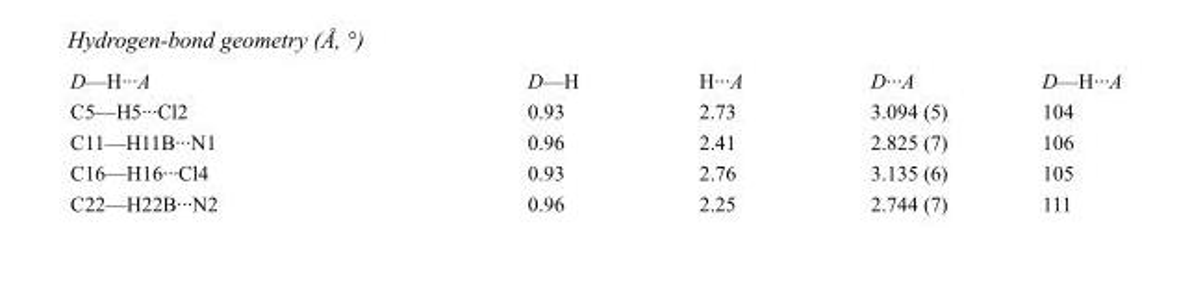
<table><tbody><tr><td>D—H···A</td><td>D—H</td><td>H···A</td><td>D···A</td><td>D—H···A</td></tr><tr><td>C5—H5···Cl2</td><td>0.93</td><td>2.73</td><td>3.094 (5)</td><td>104</td></tr><tr><td>C11—H11B···N1</td><td>0.96</td><td>2.41</td><td>2.825 (7)</td><td>106</td></tr><tr><td>C16—H16···Cl4</td><td>0.93</td><td>2.76</td><td>3.135 (6)</td><td>105</td></tr><tr><td>C22—H22B···N2</td><td>0.96</td><td>2.25</td><td>2.744 (7)</td><td>111</td></tr></tbody></table>